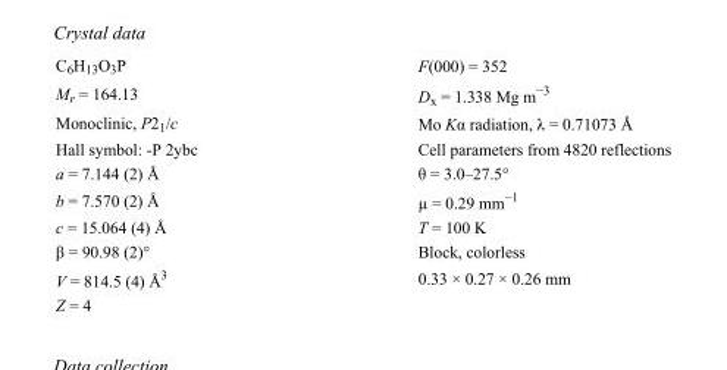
<table><tbody><tr><td>C<sub>6</sub>H<sub>13</sub>O<sub>3</sub>P</td><td>F(000) = 352</td></tr><tr><td>M<sub>r</sub> = 164.13</td><td>D<sub>x</sub> = 1.338 Mg m<sup>−3</sup></td></tr><tr><td>Monoclinic, P2<sub>1</sub>/c</td><td>Mo Kα radiation, λ = 0.71073 Å</td></tr><tr><td>Hall symbol: -P 2ybc</td><td>Cell parameters from 4820 reflections</td></tr><tr><td>a = 7.144 (2) Å</td><td>θ = 3.0–27.5°</td></tr><tr><td>b = 7.570 (2) Å</td><td>µ = 0.29 mm<sup>−1</sup></td></tr><tr><td>c = 15.064 (4) Å</td><td>T = 100 K</td></tr><tr><td>β = 90.98 (2)°</td><td>Block, colorless</td></tr><tr><td>V = 814.5 (4) Å<sup>3</sup></td><td>0.33 × 0.27 × 0.26 mm</td></tr><tr><td>Z = 4</td><td></td></tr></tbody></table>